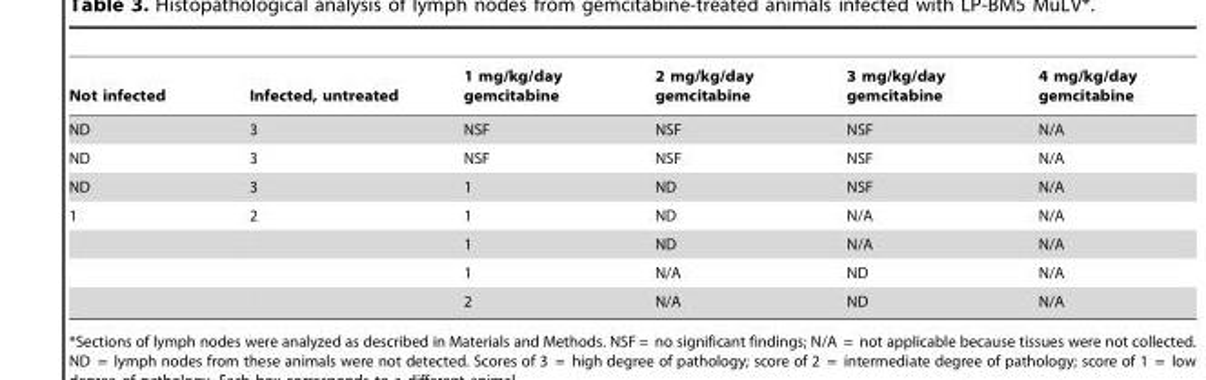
<table><thead><tr><td>Not infected</td><td>Infected, untreated</td><td>1 mg/kg/day gemcitabine</td><td>2 mg/kg/day gemcitabine</td><td>3 mg/kg/day gemcitabine</td><td>4 mg/kg/day gemcitabine</td></tr></thead><tbody><tr><td>ND</td><td>3</td><td>NSF</td><td>NSF</td><td>NSF</td><td>N/A</td></tr><tr><td>ND</td><td>3</td><td>NSF</td><td>NSF</td><td>NSF</td><td>N/A</td></tr><tr><td>ND</td><td>3</td><td>1</td><td>ND</td><td>NSF</td><td>N/A</td></tr><tr><td rowspan="4">1</td><td>2</td><td>1</td><td>ND</td><td>N/A</td><td>N/A</td></tr><tr><td></td><td>1</td><td>ND</td><td>N/A</td><td>N/A</td></tr><tr><td></td><td>1</td><td>N/A</td><td>ND</td><td>N/A</td></tr><tr><td></td><td>2</td><td>N/A</td><td>ND</td><td>N/A</td></tr></tbody></table>